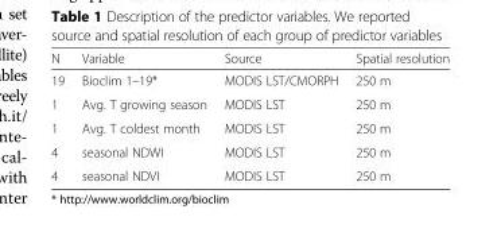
<table><thead><tr><td>N</td><td>Variable</td><td>Source</td><td>Spatial resolution</td></tr></thead><tbody><tr><td>19</td><td>Bioclim 1–19*</td><td>MODIS LST/CMORPH</td><td>250 m</td></tr><tr><td>1</td><td>Avg. T growing season</td><td>MODIS LST</td><td>250 m</td></tr><tr><td>1</td><td>Avg. T coldest month</td><td>MODIS LST</td><td>250 m</td></tr><tr><td>4</td><td>seasonal NDWI</td><td>MODIS LST</td><td>250 m</td></tr><tr><td>4</td><td>seasonal NDVI</td><td>MODIS LST</td><td>250 m</td></tr></tbody></table>